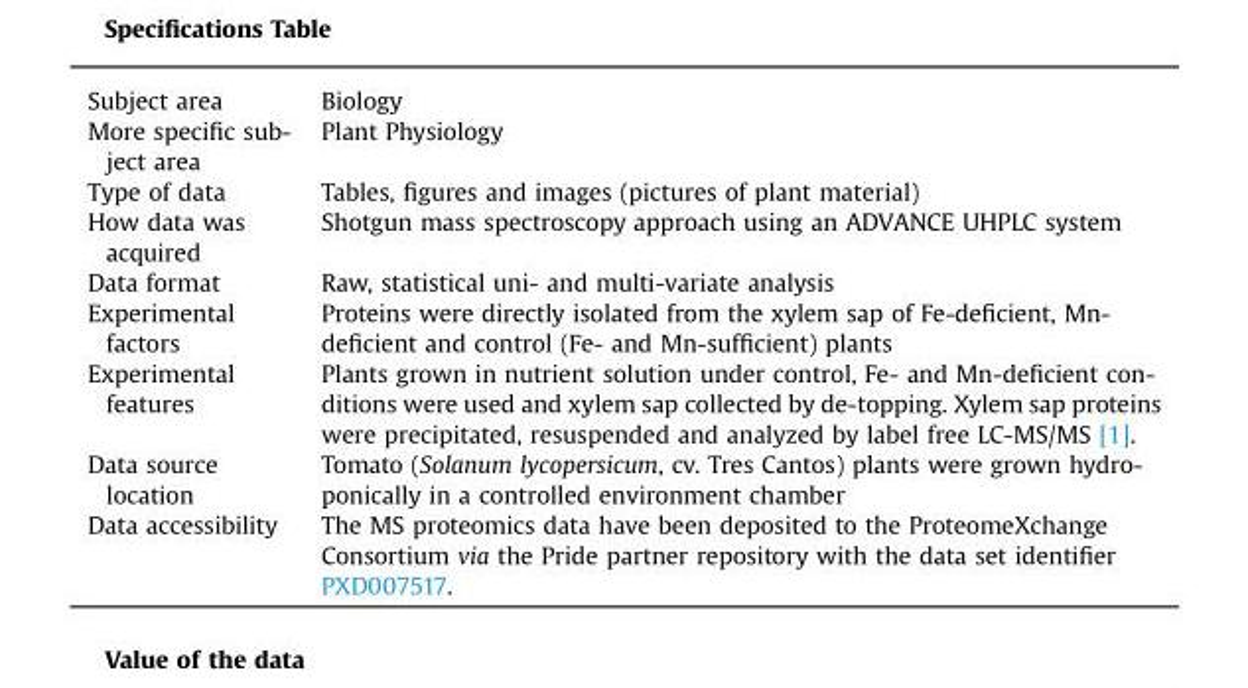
<table><tbody><tr><td>Subject area</td><td>Biology</td></tr><tr><td>More specific sub- ject area</td><td>Plant Physiology</td></tr><tr><td>Type of data</td><td>Tables, figures and images (pictures of plant material)</td></tr><tr><td>How data was acquired</td><td>Shotgun mass spectroscopy approach using an ADVANCE UHPLC system</td></tr><tr><td>Data format</td><td>Raw, statistical uni- and multi-variate analysis</td></tr><tr><td>Experimental factors</td><td>Proteins were directly isolated from the xylem sap of Fe-deficient, Mn- deficient and control (Fe- and Mn-sufficient) plants</td></tr><tr><td>Experimental features</td><td>Plants grown in nutrient solution under control, Fe- and Mn-deficient con- ditions were used and xylem sap collected by de-topping. Xylem sap proteins were precipitated, resuspended and analyzed by label free LC-MS/MS [1].</td></tr><tr><td>Data source location</td><td>Tomato (Solanum lycopersicum, cv. Tres Cantos) plants were grown hydro- ponically in a controlled environment chamber</td></tr><tr><td>Data accessibility</td><td>The MS proteomics data have been deposited to the ProteomeXchange Consortium via the Pride partner repository with the data set identifier PXD007517.</td></tr></tbody></table>